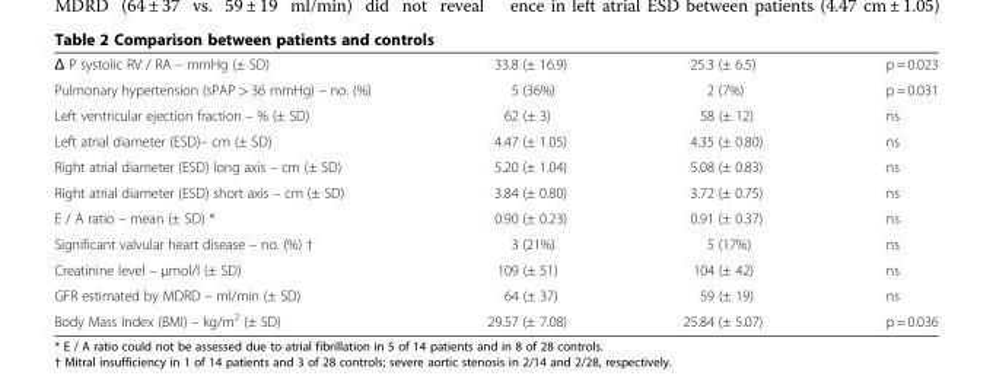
<table><tbody><tr><td>Δ P systolic RV / RA – mmHg (± SD)</td><td>33.8 (± 16.9)</td><td>25.3 (± 6.5)</td><td>p = 0.023</td></tr><tr><td>Pulmonary hypertension (sPAP &gt; 36 mmHg) – no. (%)</td><td>5 (36%)</td><td>2 (7%)</td><td>p = 0.031</td></tr><tr><td>Left ventricular ejection fraction – % (± SD)</td><td>62 (± 3)</td><td>58 (± 12)</td><td>ns</td></tr><tr><td>Left atrial diameter (ESD)– cm (± SD)</td><td>4.47 (± 1.05)</td><td>4.35 (± 0.80)</td><td>ns</td></tr><tr><td>Right atrial diameter (ESD) long axis – cm (± SD)</td><td>5.20 (± 1.04)</td><td>5.08 (± 0.83)</td><td>ns</td></tr><tr><td>Right atrial diameter (ESD) short axis – cm (± SD)</td><td>3.84 (± 0.80)</td><td>3.72 (± 0.75)</td><td>ns</td></tr><tr><td>E / A ratio – mean (± SD) *</td><td>0.90 (± 0.23)</td><td>0.91 (± 0.37)</td><td>ns</td></tr><tr><td>Significant valvular heart disease – no. (%) †</td><td>3 (21%)</td><td>5 (17%)</td><td>ns</td></tr><tr><td>Creatinine level – μmol/l (± SD)</td><td>109 (± 51)</td><td>104 (± 42)</td><td>ns</td></tr><tr><td>GFR estimated by MDRD – ml/min (± SD)</td><td>64 (± 37)</td><td>59 (± 19)</td><td>ns</td></tr><tr><td>Body Mass Index (BMI) – kg/m<sup>2</sup> (± SD)</td><td>29.57 (± 7.08)</td><td>25.84 (± 5.07)</td><td>p = 0.036</td></tr></tbody></table>